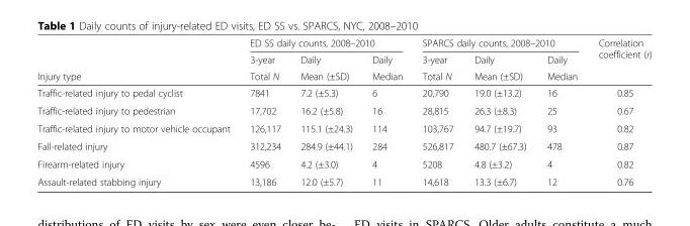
<table><thead><tr><td rowspan="3">Injury type</td><td colspan="3">ED SS daily counts, 2008–2010</td><td colspan="3">SPARCS daily counts, 2008–2010</td><td rowspan="3">Correlation coefficient (r)</td></tr><tr><td rowspan="2">3-year Total N</td><td rowspan="2">Daily Mean (±SD)</td><td rowspan="2">Daily Median</td><td rowspan="2">3-year Total N</td><td rowspan="2">Daily Mean (±SD)</td><td rowspan="2">Daily Median</td></tr><tr></tr></thead><tbody><tr><td>Traffic-related injury to pedal cyclist</td><td>7841</td><td>7.2 (±5.3)</td><td>6</td><td>20,790</td><td>19.0 (±13.2)</td><td>16</td><td>0.85</td></tr><tr><td>Traffic-related injury to pedestrian</td><td>17,702</td><td>16.2 (±5.8)</td><td>16</td><td>28,815</td><td>26.3 (±8.3)</td><td>25</td><td>0.67</td></tr><tr><td>Traffic-related injury to motor vehicle occupant</td><td>126,117</td><td>115.1 (±24.3)</td><td>114</td><td>103,767</td><td>94.7 (±19.7)</td><td>93</td><td>0.82</td></tr><tr><td>Fall-related injury</td><td>312,234</td><td>284.9 (±44.1)</td><td>284</td><td>526,817</td><td>480.7 (±67.3)</td><td>478</td><td>0.87</td></tr><tr><td>Firearm-related injury</td><td>4596</td><td>4.2 (±3.0)</td><td>4</td><td>5208</td><td>4.8 (±3.2)</td><td>4</td><td>0.82</td></tr><tr><td>Assault-related stabbing injury</td><td>13,186</td><td>12.0 (±5.7)</td><td>11</td><td>14,618</td><td>13.3 (±6.7)</td><td>12</td><td>0.76</td></tr></tbody></table>